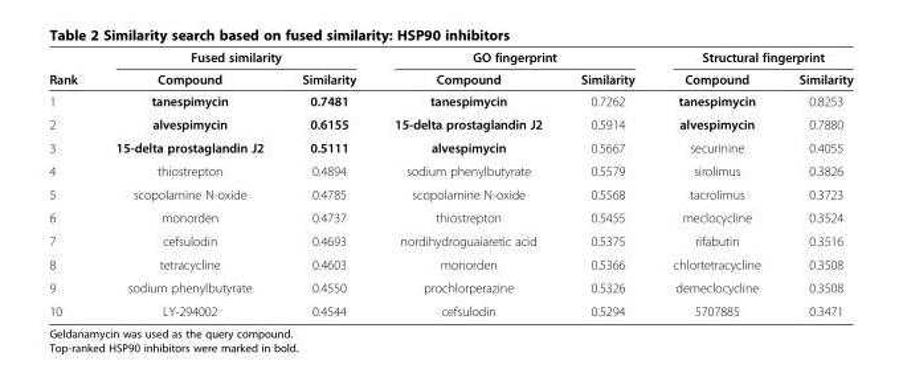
<table><thead><tr><td rowspan="2">Rank</td><td colspan="2">Fused similarity</td><td colspan="2">GO fingerprint</td><td colspan="2">Structural fingerprint</td></tr><tr><td>Compound</td><td>Similarity</td><td>Compound</td><td>Similarity</td><td>Compound</td><td>Similarity</td></tr></thead><tbody><tr><td>1</td><td>tanespimycin</td><td>0.7481</td><td>tanespimycin</td><td>0.7262</td><td>tanespimycin</td><td>0.8253</td></tr><tr><td>2</td><td>alvespimycin</td><td>0.6155</td><td>15-delta prostaglandin J2</td><td>0.5914</td><td>alvespimycin</td><td>0.7880</td></tr><tr><td>3</td><td>15-delta prostaglandin J2</td><td>0.5111</td><td>alvespimycin</td><td>0.5667</td><td>securinine</td><td>0.4055</td></tr><tr><td>4</td><td>thiostrepton</td><td>0.4894</td><td>sodium phenylbutyrate</td><td>0.5579</td><td>sirolimus</td><td>0.3826</td></tr><tr><td>5</td><td>scopolamine N-oxide</td><td>0.4785</td><td>scopolamine N-oxide</td><td>0.5568</td><td>tacrolimus</td><td>0.3723</td></tr><tr><td>6</td><td>monorden</td><td>0.4737</td><td>thiostrepton</td><td>0.5455</td><td>meclocycline</td><td>0.3524</td></tr><tr><td>7</td><td>cefsulodin</td><td>0.4693</td><td>nordihydroguaiaretic acid</td><td>0.5375</td><td>rifabutin</td><td>0.3516</td></tr><tr><td>8</td><td>tetracycline</td><td>0.4603</td><td>monorden</td><td>0.5366</td><td>chlortetracycline</td><td>0.3508</td></tr><tr><td>9</td><td>sodium phenylbutyrate</td><td>0.4550</td><td>prochlorperazine</td><td>0.5326</td><td>demeclocycline</td><td>0.3508</td></tr><tr><td>10</td><td>LY-294002</td><td>0.4544</td><td>cefsulodin</td><td>0.5294</td><td>5707885</td><td>0.3471</td></tr></tbody></table>